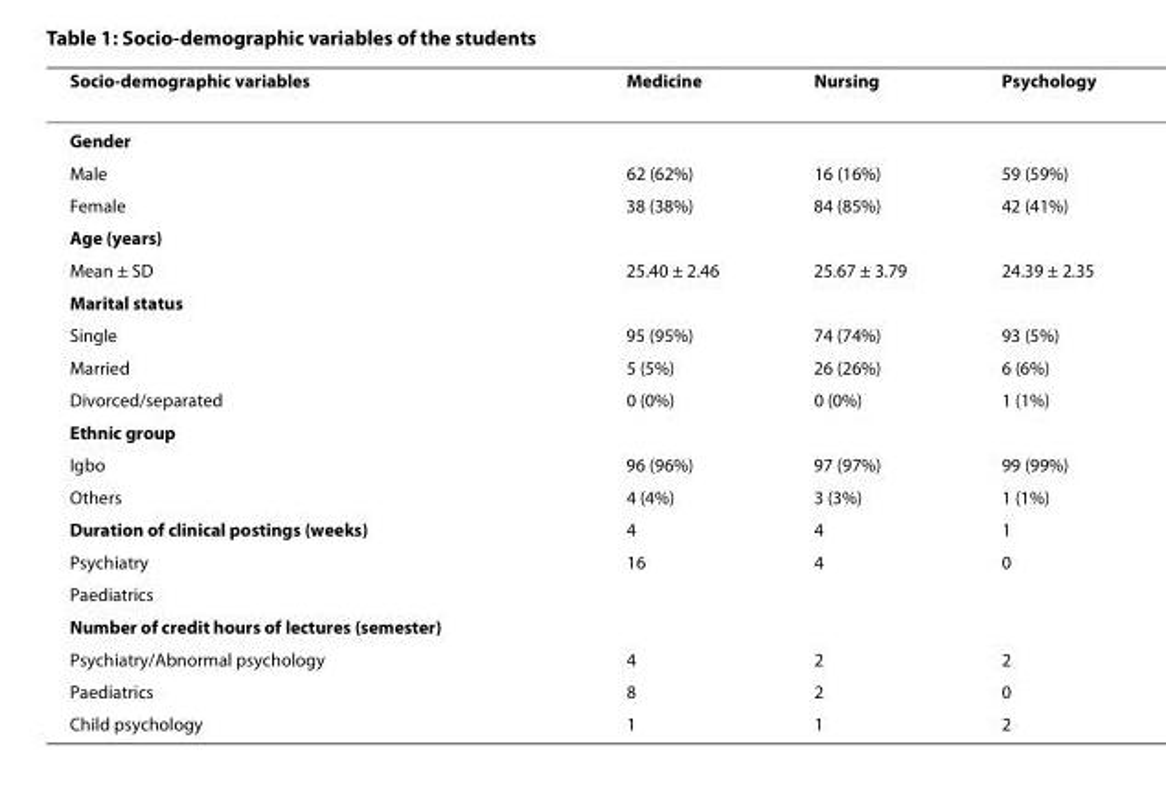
<table><thead><tr><td>Socio-demographic variables</td><td>Medicine</td><td>Nursing</td><td>Psychology</td></tr></thead><tbody><tr><td colspan="4">Gender</td></tr><tr><td>Male</td><td>62 (62%)</td><td>16 (16%)</td><td>59 (59%)</td></tr><tr><td>Female</td><td>38 (38%)</td><td>84 (85%)</td><td>42 (41%)</td></tr><tr><td colspan="4">Age (years)</td></tr><tr><td>Mean ± SD</td><td>25.40 ± 2.46</td><td>25.67 ± 3.79</td><td>24.39 ± 2.35</td></tr><tr><td colspan="4">Marital status</td></tr><tr><td>Single</td><td>95 (95%)</td><td>74 (74%)</td><td>93 (5%)</td></tr><tr><td>Married</td><td>5 (5%)</td><td>26 (26%)</td><td>6 (6%)</td></tr><tr><td>Divorced/separated</td><td>0 (0%)</td><td>0 (0%)</td><td>1 (1%)</td></tr><tr><td colspan="4">Ethnic group</td></tr><tr><td>Igbo</td><td>96 (96%)</td><td>97 (97%)</td><td>99 (99%)</td></tr><tr><td>Others</td><td>4 (4%)</td><td>3 (3%)</td><td>1 (1%)</td></tr><tr><td>Duration of clinical postings (weeks)</td><td>4</td><td>4</td><td>1</td></tr><tr><td>Psychiatry</td><td>16</td><td>4</td><td>0</td></tr><tr><td colspan="4">Paediatrics</td></tr><tr><td colspan="4">Number of credit hours of lectures (semester)</td></tr><tr><td>Psychiatry/Abnormal psychology</td><td>4</td><td>2</td><td>2</td></tr><tr><td>Paediatrics</td><td>8</td><td>2</td><td>0</td></tr><tr><td>Child psychology</td><td>1</td><td>1</td><td>2</td></tr></tbody></table>